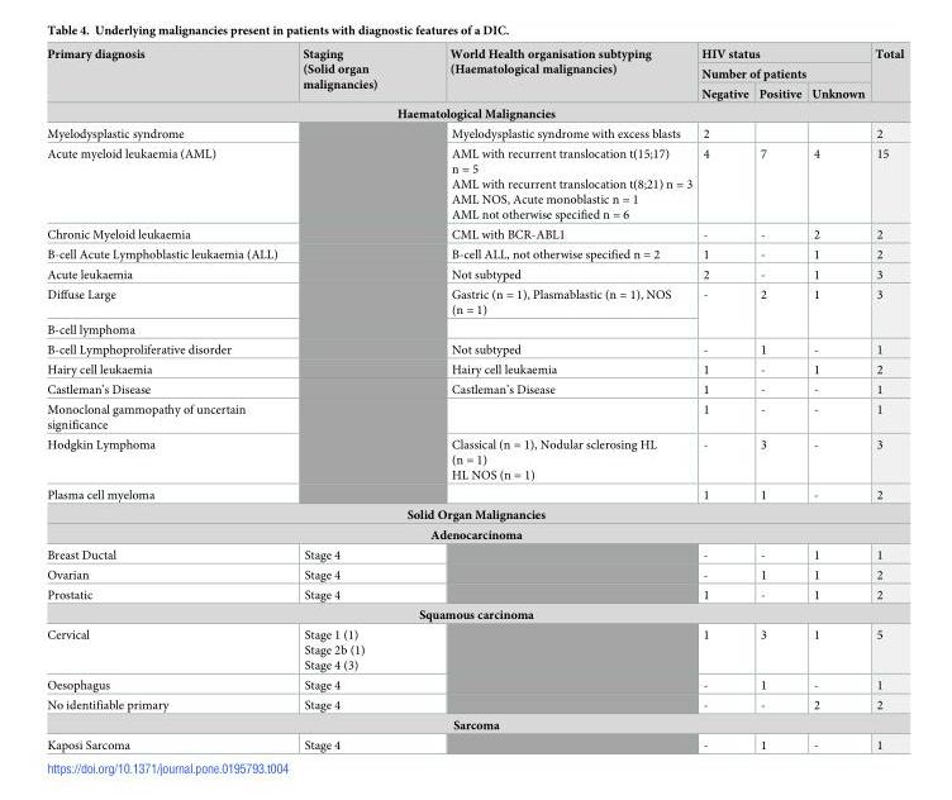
<table><thead><tr><td rowspan="3">Primary diagnosis</td><td rowspan="3">Staging (Solid organ malignancies)</td><td rowspan="3">World Health organisation subtyping (Haematological malignancies)</td><td rowspan="2" colspan="3">HIV status Number of patients</td><td rowspan="3">Total</td></tr><tr></tr><tr><td>Negative</td><td>Positive</td><td>Unknown</td></tr></thead><tbody><tr><td colspan="7">Haematological Malignancies</td></tr><tr><td>Myelodysplastic syndrome</td><td></td><td>Myelodysplastic syndrome with excess blasts</td><td>2</td><td></td><td></td><td>2</td></tr><tr><td>Acute myeloid leukaemia (AML)</td><td></td><td>AML with recurrent translocation t(15;17) n = 5 AML with recurrent translocation t(8;21) n = 3 AML NOS, Acute monoblastic n = 1 AML not otherwise specified n = 6</td><td>4</td><td>7</td><td>4</td><td>15</td></tr><tr><td>Chronic Myeloid leukaemia</td><td></td><td>CML with BCR-ABL1</td><td>-</td><td>-</td><td>2</td><td>2</td></tr><tr><td>B-cell Acute Lymphoblastic leukaemia (ALL)</td><td></td><td>B-cell ALL, not otherwise specified n = 2</td><td>1</td><td>-</td><td>1</td><td>2</td></tr><tr><td>Acute leukaemia</td><td></td><td>Not subtyped</td><td>2</td><td>-</td><td>1</td><td>3</td></tr><tr><td>Diffuse Large</td><td></td><td>Gastric (n = 1), Plasmablastic (n = 1), NOS (n = 1)</td><td rowspan="2">-</td><td rowspan="2">2</td><td rowspan="2">1</td><td rowspan="2">3</td></tr><tr><td colspan="3">B-cell lymphoma</td></tr><tr><td>B-cell Lymphoproliferative disorder</td><td></td><td>Not subtyped</td><td>-</td><td>1</td><td>-</td><td>1</td></tr><tr><td>Hairy cell leukaemia</td><td></td><td>Hairy cell leukaemia</td><td>1</td><td>-</td><td>1</td><td>2</td></tr><tr><td>Castleman’s Disease</td><td></td><td>Castleman’s Disease</td><td>1</td><td>-</td><td>-</td><td>1</td></tr><tr><td>Monoclonal gammopathy of uncertain significance</td><td></td><td></td><td>1</td><td>-</td><td>-</td><td>1</td></tr><tr><td>Hodgkin Lymphoma</td><td></td><td>Classical (n = 1), Nodular sclerosing HL (n = 1) HL NOS (n = 1)</td><td>-</td><td>3</td><td>-</td><td>3</td></tr><tr><td>Plasma cell myeloma</td><td></td><td></td><td>1</td><td>1</td><td>-</td><td>2</td></tr><tr><td colspan="7">Solid Organ Malignancies</td></tr><tr><td colspan="7">Adenocarcinoma</td></tr><tr><td>Breast Ductal</td><td>Stage 4</td><td></td><td>-</td><td>-</td><td>1</td><td>1</td></tr><tr><td>Ovarian</td><td>Stage 4</td><td></td><td>-</td><td>1</td><td>1</td><td>2</td></tr><tr><td>Prostatic</td><td>Stage 4</td><td></td><td>1</td><td>-</td><td>1</td><td>2</td></tr><tr><td colspan="7">Squamous carcinoma</td></tr><tr><td>Cervical</td><td>Stage 1 (1) Stage 2b (1) Stage 4 (3)</td><td></td><td>1</td><td>3</td><td>1</td><td>5</td></tr><tr><td>Oesophagus</td><td>Stage 4</td><td></td><td>-</td><td>1</td><td>-</td><td>1</td></tr><tr><td>No identifiable primary</td><td>Stage 4</td><td></td><td>-</td><td>-</td><td>2</td><td>2</td></tr><tr><td colspan="7">Sarcoma</td></tr><tr><td>Kaposi Sarcoma</td><td>Stage 4</td><td></td><td>-</td><td>1</td><td>-</td><td>1</td></tr></tbody></table>